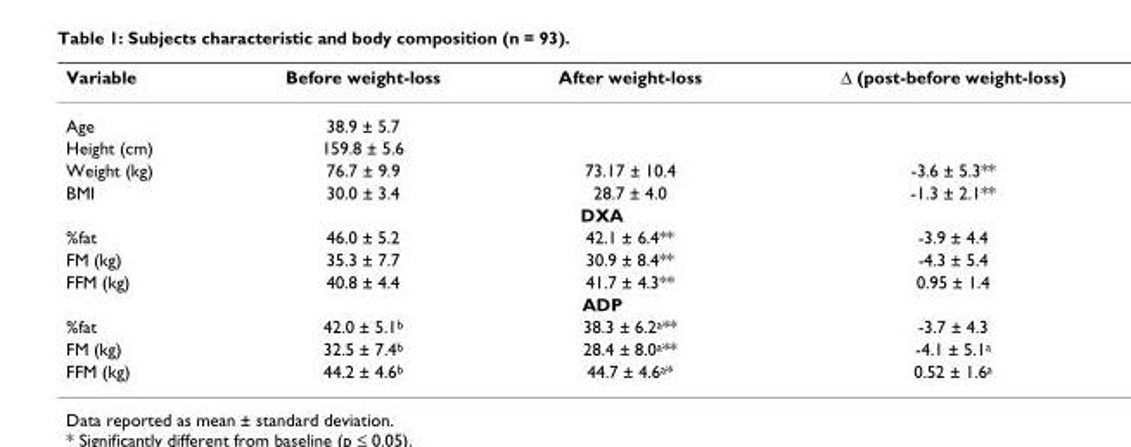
<table><thead><tr><td>Variable</td><td>Before weight-loss</td><td>After weight-loss</td><td>Δ (post-before weight-loss)</td></tr></thead><tbody><tr><td>Age</td><td>38.9 ± 5.7</td><td></td><td></td></tr><tr><td>Height (cm)</td><td>159.8 ± 5.6</td><td></td><td></td></tr><tr><td>Weight (kg)</td><td>76.7 ± 9.9</td><td>73.17 ± 10.4</td><td>-3.6 ± 5.3**</td></tr><tr><td>BMI</td><td>30.0 ± 3.4</td><td>28.7 ± 4.0</td><td>-1.3 ± 2.1**</td></tr><tr><td colspan="4">DXA</td></tr><tr><td>%fat</td><td>46.0 ± 5.2</td><td>42.1 ± 6.4**</td><td>-3.9 ± 4.4</td></tr><tr><td>FM (kg)</td><td>35.3 ± 7.7</td><td>30.9 ± 8.4**</td><td>-4.3 ± 5.4</td></tr><tr><td>FFM (kg)</td><td>40.8 ± 4.4</td><td>41.7 ± 4.3**</td><td>0.95 ± 1.4</td></tr><tr><td colspan="4">ADP</td></tr><tr><td>%fat</td><td>42.0 ± 5.1<sup>b</sup></td><td>38.3 ± 6.2<sup>a</sup>**</td><td>-3.7 ± 4.3</td></tr><tr><td>FM (kg)</td><td>32.5 ± 7.4<sup>b</sup></td><td>28.4 ± 8.0<sup>a</sup>**</td><td>-4.1 ± 5.1<sup>a</sup></td></tr><tr><td>FFM (kg)</td><td>44.2 ± 4.6<sup>b</sup></td><td>44.7 ± 4.6<sup>a</sup>*</td><td>0.52 ± 1.6<sup>a</sup></td></tr></tbody></table>